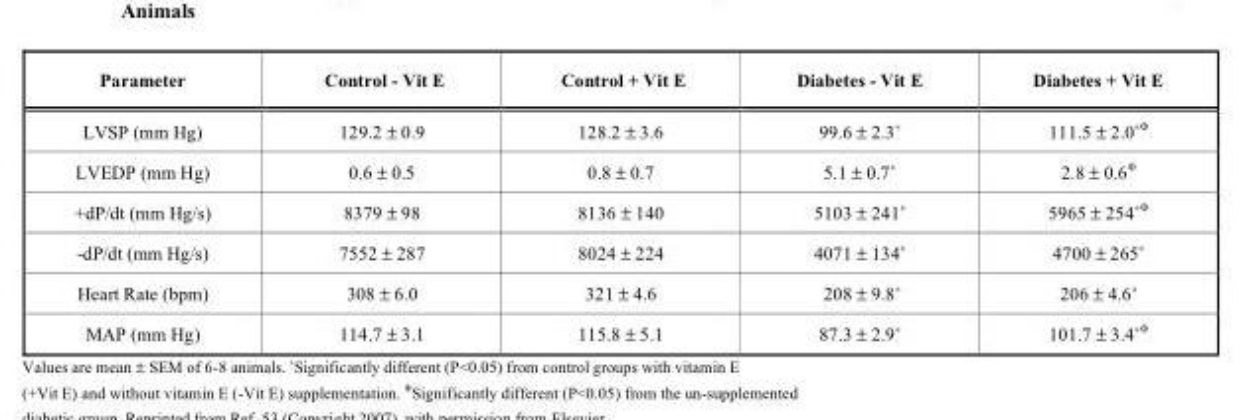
<table><thead><tr><td>Parameter</td><td>Control - Vit E</td><td>Control + Vit E</td><td>Diabetes - Vit E</td><td>Diabetes + Vit E</td></tr></thead><tbody><tr><td>LVSP (mm Hg)</td><td>129.2 ± 0.9</td><td>128.2 ± 3.6</td><td>99.6 ± 2.3*</td><td>111.5 ± 2.0*Ф</td></tr><tr><td>LVEDP (mm Hg)</td><td>0.6 ± 0.5</td><td>0.8 ± 0.7</td><td>5.1 ± 0.7*</td><td>2.8 ± 0.6Ф</td></tr><tr><td>+dP/dt (mm Hg/s)</td><td>8379 ± 98</td><td>8136 ± 140</td><td>5103 ± 241*</td><td>5965 ± 254*Ф</td></tr><tr><td>-dP/dt (mm Hg/s)</td><td>7552 ± 287</td><td>8024 ± 224</td><td>4071 ± 134*</td><td>4700 ± 265*</td></tr><tr><td>Heart Rate (bpm)</td><td>308 ± 6.0</td><td>321 ± 4.6</td><td>208 ± 9.8�</td><td>206 ± 4.6*</td></tr><tr><td>MAP (mm Hg)</td><td>114.7 ± 3.1</td><td>115.8 ± 5.1</td><td>87.3 ± 2.9*</td><td>101.7 ± 3.4*Ф</td></tr></tbody></table>